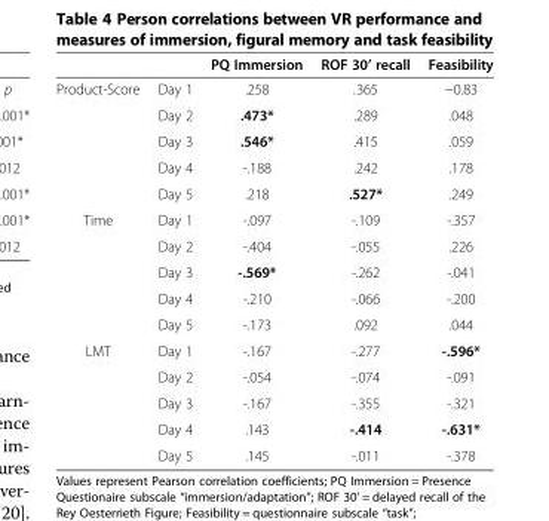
<table><thead><tr><td></td><td></td><td>PQ Immersion</td><td>ROF 30’ recall</td><td>Feasibility</td></tr></thead><tbody><tr><td rowspan="5">Product-Score</td><td>Day 1</td><td>.258</td><td>.365</td><td>−0.83</td></tr><tr><td>Day 2</td><td>.473*</td><td>.289</td><td>.048</td></tr><tr><td>Day 3</td><td>.546*</td><td>.415</td><td>.059</td></tr><tr><td>Day 4</td><td>-.188</td><td>.242</td><td>.178</td></tr><tr><td>Day 5</td><td>.218</td><td>.527*</td><td>.249</td></tr><tr><td rowspan="5">Time</td><td>Day 1</td><td>-.097</td><td>-.109</td><td>-.357</td></tr><tr><td>Day 2</td><td>-.404</td><td>-.055</td><td>.226</td></tr><tr><td>Day 3</td><td>-.569*</td><td>-.262</td><td>-.041</td></tr><tr><td>Day 4</td><td>-.210</td><td>-.066</td><td>-.200</td></tr><tr><td>Day 5</td><td>-.173</td><td>.092</td><td>.044</td></tr><tr><td rowspan="5">LMT</td><td>Day 1</td><td>-.167</td><td>-.277</td><td>-.596*</td></tr><tr><td>Day 2</td><td>-.054</td><td>-.074</td><td>-.091</td></tr><tr><td>Day 3</td><td>-.167</td><td>-.355</td><td>-.321</td></tr><tr><td>Day 4</td><td>.143</td><td>-.414</td><td>-.631*</td></tr><tr><td>Day 5</td><td>.145</td><td>-.011</td><td>-.378</td></tr></tbody></table>